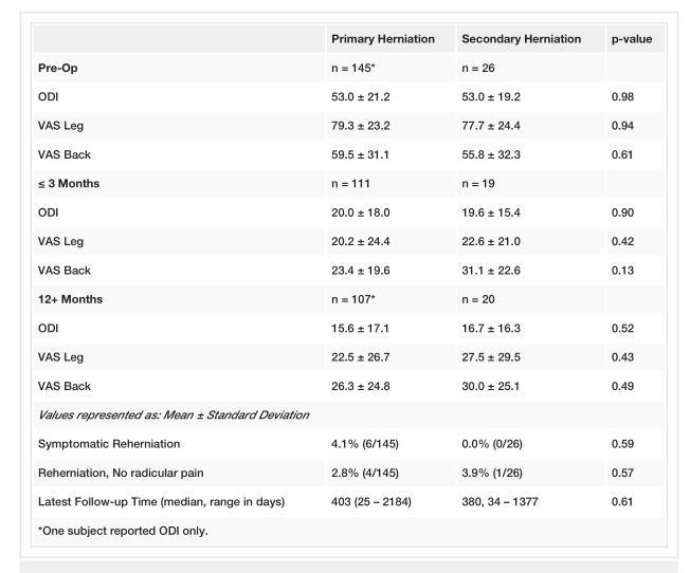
<table><thead><tr><td></td><td>Primary Herniation</td><td>Secondary Herniation</td><td>p-value</td></tr></thead><tbody><tr><td>Pre-Op</td><td>n = 145*</td><td>n = 26</td><td></td></tr><tr><td>ODI</td><td>53.0 ± 21.2</td><td>53.0 ± 19.2</td><td>0.98</td></tr><tr><td>VAS Leg</td><td>79.3 ± 23.2</td><td>77.7 ± 24.4</td><td>0.94</td></tr><tr><td>VAS Back</td><td>59.5 ± 31.1</td><td>55.8 ± 32.3</td><td>0.61</td></tr><tr><td>≤ 3 Months</td><td>n = 111</td><td>n = 19</td><td></td></tr><tr><td>ODI</td><td>20.0 ± 18.0</td><td>19.6 ± 15.4</td><td>0.90</td></tr><tr><td>VAS Leg</td><td>20.2 ± 24.4</td><td>22.6 ± 21.0</td><td>0.42</td></tr><tr><td>VAS Back</td><td>23.4 ± 19.6</td><td>31.1 ± 22.6</td><td>0.13</td></tr><tr><td>12+ Months</td><td>n = 107*</td><td>n = 20</td><td></td></tr><tr><td>ODI</td><td>15.6 ± 17.1</td><td>16.7 ± 16.3</td><td>0.52</td></tr><tr><td>VAS Leg</td><td>22.5 ± 26.7</td><td>27.5 ± 29.5</td><td>0.43</td></tr><tr><td>VAS Back</td><td>26.3 ± 24.8</td><td>30.0 ± 25.1</td><td>0.49</td></tr><tr><td colspan="4">Values represented as: Mean ± Standard Deviation</td></tr><tr><td>Symptomatic Reherniation</td><td>4.1% (6/145)</td><td>0.0% (0/26)</td><td>0.59</td></tr><tr><td>Reherniation, No radicular pain</td><td>2.8% (4/145)</td><td>3.9% (1/26)</td><td>0.57</td></tr><tr><td>Latest Follow-up Time (median, range in days)</td><td>403 (25 – 2184)</td><td>380, 34 – 1377</td><td>0.61</td></tr><tr><td colspan="4">*One subject reported ODI only.</td></tr></tbody></table>